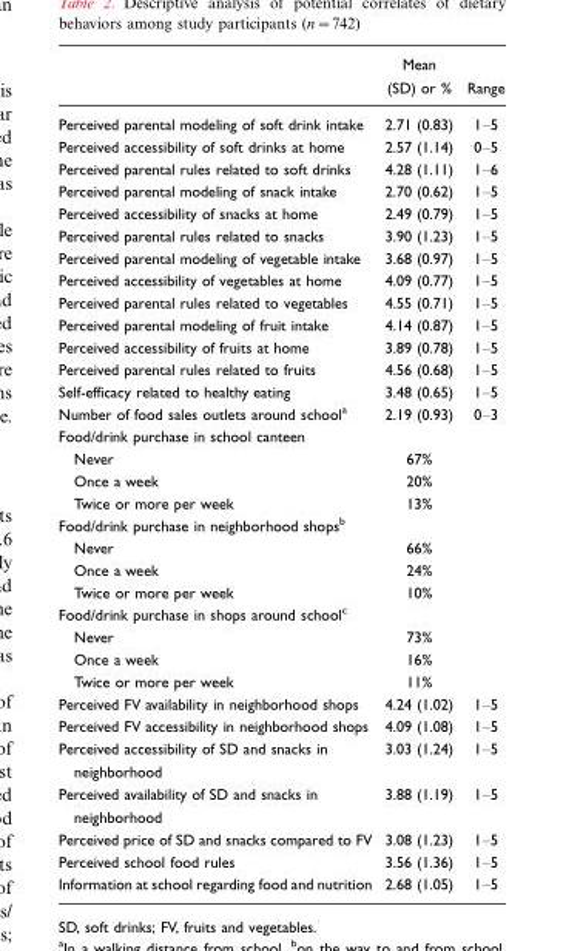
<table><thead><tr><td></td><td>Mean (SD) or %</td><td>Range</td></tr></thead><tbody><tr><td>Perceived parental modeling of soft drink intake</td><td>2.71 (0.83)</td><td>1–5</td></tr><tr><td>Perceived accessibility of soft drinks at home</td><td>2.57 (1.14)</td><td>0–5</td></tr><tr><td>Perceived parental rules related to soft drinks</td><td>4.28 (1.11)</td><td>1–6</td></tr><tr><td>Perceived parental modeling of snack intake</td><td>2.70 (0.62)</td><td>1–5</td></tr><tr><td>Perceived accessibility of snacks at home</td><td>2.49 (0.79)</td><td>1–5</td></tr><tr><td>Perceived parental rules related to snacks</td><td>3.90 (1.23)</td><td>1–5</td></tr><tr><td>Perceived parental modeling of vegetable intake</td><td>3.68 (0.97)</td><td>1–5</td></tr><tr><td>Perceived accessibility of vegetables at home</td><td>4.09 (0.77)</td><td>1–5</td></tr><tr><td>Perceived parental rules related to vegetables</td><td>4.55 (0.71)</td><td>1–5</td></tr><tr><td>Perceived parental modeling of fruit intake</td><td>4.14 (0.87)</td><td>1–5</td></tr><tr><td>Perceived accessibility of fruits at home</td><td>3.89 (0.78)</td><td>1–5</td></tr><tr><td>Perceived parental rules related to fruits</td><td>4.56 (0.68)</td><td>1–5</td></tr><tr><td>Self-efficacy related to healthy eating</td><td>3.48 (0.65)</td><td>1–5</td></tr><tr><td>Number of food sales outlets around school<sup>a</sup></td><td>2.19 (0.93)</td><td>0–3</td></tr><tr><td colspan="3">Food/drink purchase in school canteen</td></tr><tr><td>Never</td><td>67%</td><td></td></tr><tr><td>Once a week</td><td>20%</td><td></td></tr><tr><td>Twice or more per week</td><td>13%</td><td></td></tr><tr><td colspan="3">Food/drink purchase in neighborhood shops<sup>b</sup></td></tr><tr><td>Never</td><td>66%</td><td></td></tr><tr><td>Once a week</td><td>24%</td><td></td></tr><tr><td>Twice or more per week</td><td>10%</td><td></td></tr><tr><td colspan="3">Food/drink purchase in shops around school<sup>c</sup></td></tr><tr><td>Never</td><td>73%</td><td></td></tr><tr><td>Once a week</td><td>16%</td><td></td></tr><tr><td>Twice or more per week</td><td>11%</td><td></td></tr><tr><td>Perceived FV availability in neighborhood shops</td><td>4.24 (1.02)</td><td>1–5</td></tr><tr><td>Perceived FV accessibility in neighborhood shops</td><td>4.09 (1.08)</td><td>1–5</td></tr><tr><td>Perceived accessibility of SD and snacks in neighborhood</td><td>3.03 (1.24)</td><td>1–5</td></tr><tr><td>Perceived availability of SD and snacks in neighborhood</td><td>3.88 (1.19)</td><td>1–5</td></tr><tr><td>Perceived price of SD and snacks compared to FV</td><td>3.08 (1.23)</td><td>1–5</td></tr><tr><td>Perceived school food rules</td><td>3.56 (1.36)</td><td>1–5</td></tr><tr><td>Information at school regarding food and nutrition</td><td>2.68 (1.05)</td><td>1–5</td></tr></tbody></table>